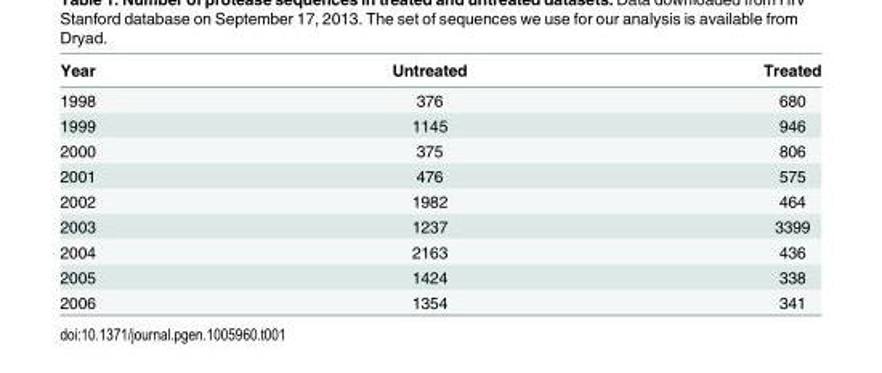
<table><thead><tr><td>Year</td><td>Untreated</td><td>Treated</td></tr></thead><tbody><tr><td>1998</td><td>376</td><td>680</td></tr><tr><td>1999</td><td>1145</td><td>946</td></tr><tr><td>2000</td><td>375</td><td>806</td></tr><tr><td>2001</td><td>476</td><td>575</td></tr><tr><td>2002</td><td>1982</td><td>464</td></tr><tr><td>2003</td><td>1237</td><td>3399</td></tr><tr><td>2004</td><td>2163</td><td>436</td></tr><tr><td>2005</td><td>1424</td><td>338</td></tr><tr><td>2006</td><td>1354</td><td>341</td></tr></tbody></table>